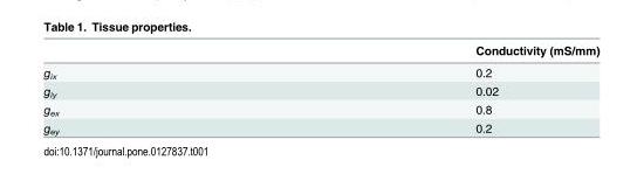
<table><thead><tr><td></td><td>Conductivity (mS/mm)</td></tr></thead><tbody><tr><td>g<sub>ix</sub></td><td>0.2</td></tr><tr><td>g<sub>iy</sub></td><td>0.02</td></tr><tr><td>g<sub>ex</sub></td><td>0.8</td></tr><tr><td>g<sub>ey</sub></td><td>0.2</td></tr></tbody></table>